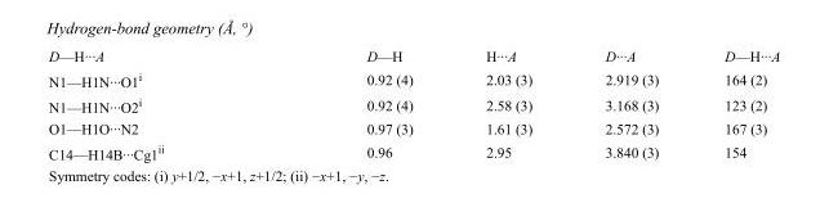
<table><tbody><tr><td>D—H···A</td><td>D—H</td><td>H···A</td><td>D···A</td><td>D—H···A</td></tr><tr><td>N1—H1N···O1<sup>i</sup></td><td>0.92 (4)</td><td>2.03 (3)</td><td>2.919 (3)</td><td>164 (2)</td></tr><tr><td>N1—H1N···O2<sup>i</sup></td><td>0.92 (4)</td><td>2.58 (3)</td><td>3.168 (3)</td><td>123 (2)</td></tr><tr><td>O1—H1O···N2</td><td>0.97 (3)</td><td>1.61 (3)</td><td>2.572 (3)</td><td>167 (3)</td></tr><tr><td>C14—H14B···Cg1<sup>ii</sup></td><td>0.96</td><td>2.95</td><td>3.840 (3)</td><td>154</td></tr></tbody></table>